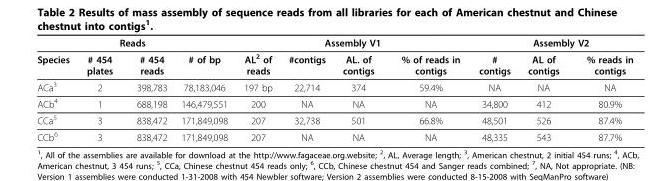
<table><thead><tr><td colspan="4">Reads</td><td colspan="4">Assembly V1</td><td colspan="3">Assembly V2</td></tr><tr><td>Species</td><td># 454 plates</td><td># 454 reads</td><td># of bp</td><td>AL<sup>2</sup> of reads</td><td>#contigs</td><td>AL. of contigs</td><td>% of reads in contigs</td><td># contigs</td><td>AL of contigs</td><td>% reads in contigs</td></tr></thead><tbody><tr><td>ACa<sup>3</sup></td><td>2</td><td>398,783</td><td>78,183,046</td><td>197 bp</td><td>22,714</td><td>374</td><td>59.4%</td><td>NA</td><td>NA</td><td>NA</td></tr><tr><td>ACb<sup>4</sup></td><td>1</td><td>688,198</td><td>146,479,551</td><td>200</td><td>NA</td><td>NA</td><td>NA</td><td>34,800</td><td>412</td><td>80.9%</td></tr><tr><td>CCa<sup>5</sup></td><td>3</td><td>838,472</td><td>171,849,098</td><td>207</td><td>32,738</td><td>501</td><td>66.8%</td><td>48,501</td><td>526</td><td>87.4%</td></tr><tr><td>CCb<sup>6</sup></td><td>3</td><td>838,472</td><td>171,849,098</td><td>207</td><td>NA</td><td>NA</td><td>NA</td><td>48,335</td><td>543</td><td>87.7%</td></tr></tbody></table>